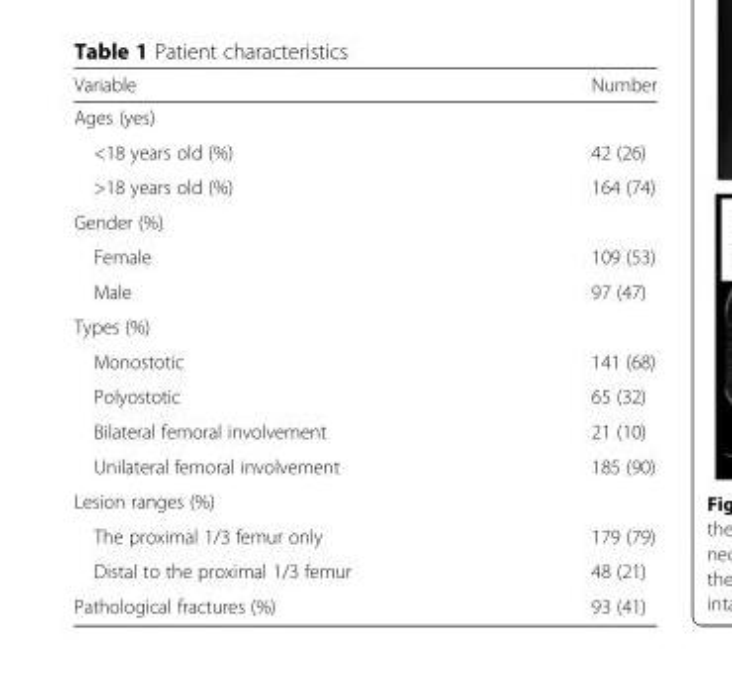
<table><thead><tr><td>Variable</td><td>Number</td></tr></thead><tbody><tr><td colspan="2">Ages (yes)</td></tr><tr><td>&lt;18 years old (%)</td><td>42 (26)</td></tr><tr><td>&gt;18 years old (%)</td><td>164 (74)</td></tr><tr><td colspan="2">Gender (%)</td></tr><tr><td>Female</td><td>109 (53)</td></tr><tr><td>Male</td><td>97 (47)</td></tr><tr><td colspan="2">Types (%)</td></tr><tr><td>Monostotic</td><td>141 (68)</td></tr><tr><td>Polyostotic</td><td>65 (32)</td></tr><tr><td>Bilateral femoral involvement</td><td>21 (10)</td></tr><tr><td>Unilateral femoral involvement</td><td>185 (90)</td></tr><tr><td colspan="2">Lesion ranges (%)</td></tr><tr><td>The proximal 1/3 femur only</td><td>179 (79)</td></tr><tr><td>Distal to the proximal 1/3 femur</td><td>48 (21)</td></tr><tr><td>Pathological fractures (%)</td><td>93 (41)</td></tr></tbody></table>